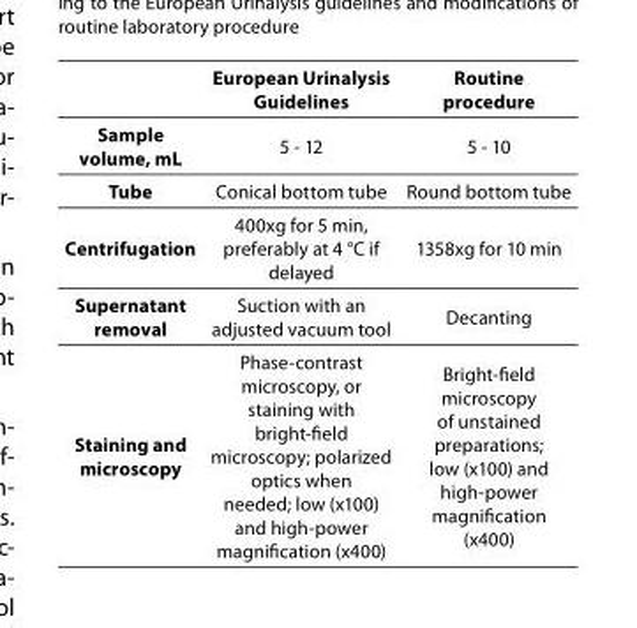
<table><thead><tr><td></td><td>European Urinalysis Guidelines</td><td>Routine procedure</td></tr></thead><tbody><tr><td>Sample volume, mL</td><td>5 - 12</td><td>5 - 10</td></tr><tr><td>Tube</td><td>Conical bottom tube</td><td>Round bottom tube</td></tr><tr><td>Centrifugation</td><td>400xg for 5 min, preferably at 4 °C if delayed</td><td>1358xg for 10 min</td></tr><tr><td>Supernatant removal</td><td>Suction with an adjusted vacuum tool</td><td>Decanting</td></tr><tr><td>Staining and microscopy</td><td>Phase-contrast microscopy, or staining with bright-field microscopy; polarized optics when needed; low (x100) and high-power magnification (x400)</td><td>Bright-field microscopy of unstained preparations; low (x100) and high-power magnification (x400)</td></tr></tbody></table>